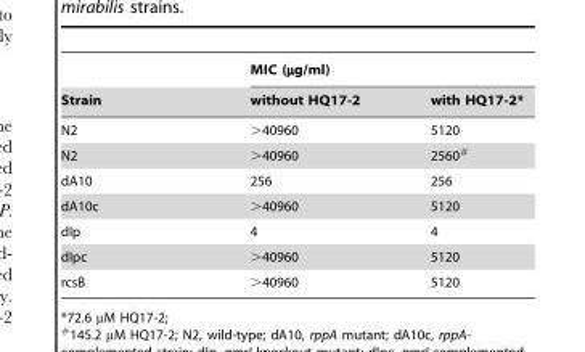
<table><thead><tr><td rowspan="2">Strain</td><td colspan="2">MIC (µg/ml)</td></tr><tr><td>without HQ17-2</td><td>with HQ17-2*</td></tr></thead><tbody><tr><td>N2</td><td>&gt;40960</td><td>5120</td></tr><tr><td>N2</td><td>&gt;40960</td><td>2560#</td></tr><tr><td>dA10</td><td>256</td><td>256</td></tr><tr><td>dA10c</td><td>&gt;40960</td><td>5120</td></tr><tr><td>dIp</td><td>4</td><td>4</td></tr><tr><td>dIpc</td><td>&gt;40960</td><td>5120</td></tr><tr><td>rcsB</td><td>&gt;40960</td><td>5120</td></tr></tbody></table>